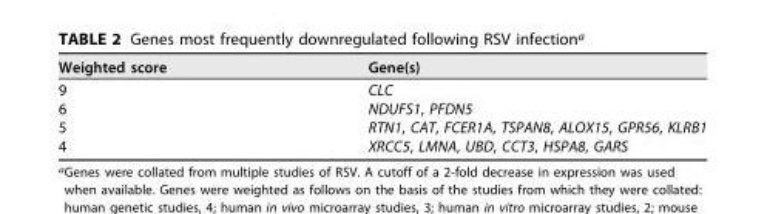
<table><thead><tr><td>Weighted score</td><td>Gene(s)</td></tr></thead><tbody><tr><td>9</td><td>CLC</td></tr><tr><td>6</td><td>NDUFS1, PFDN5</td></tr><tr><td>5</td><td>RTN1, CAT, FCER1A, TSPAN8, ALOX15, GPR56, KLRB1</td></tr><tr><td>4</td><td>XRCC5, LMNA, UBD, CCT3, HSPA8, GARS</td></tr></tbody></table>